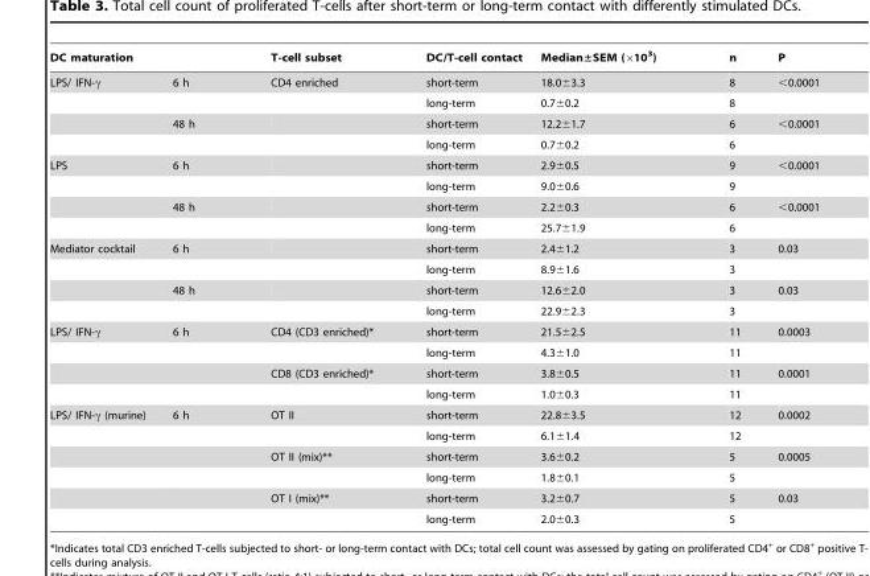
<table><thead><tr><td colspan="2">DC maturation</td><td rowspan="2">T-cell subset CD4 enriched</td><td rowspan="2">DC/T-cell contact short-term</td><td rowspan="2">Median±SEM (×10<sup>3</sup>) 18.0±3.3</td><td rowspan="2">n 8</td><td rowspan="2">P &lt;0.0001</td></tr><tr><td>LPS/ IFN-γ</td><td>6 h</td></tr></thead><tbody><tr><td></td><td></td><td></td><td>long-term</td><td>0.7±0.2</td><td>8</td><td></td></tr><tr><td></td><td>48 h</td><td></td><td>short-term</td><td>12.2±1.7</td><td>6</td><td>&lt;0.0001</td></tr><tr><td></td><td></td><td></td><td>long-term</td><td>0.7±0.2</td><td>6</td><td></td></tr><tr><td rowspan="4">LPS</td><td>6 h</td><td></td><td>short-term</td><td>2.9±0.5</td><td>9</td><td>&lt;0.0001</td></tr><tr><td></td><td></td><td>long-term</td><td>9.0±0.6</td><td>9</td><td></td></tr><tr><td>48 h</td><td></td><td>short-term</td><td>2.2±0.3</td><td>6</td><td>&lt;0.0001</td></tr><tr><td></td><td></td><td>long-term</td><td>25.7±1.9</td><td>6</td><td></td></tr><tr><td rowspan="4">Mediator cocktail</td><td>6 h</td><td></td><td>short-term</td><td>2.4±1.2</td><td>3</td><td>0.03</td></tr><tr><td></td><td></td><td>long-term</td><td>8.9±1.6</td><td>3</td><td></td></tr><tr><td>48 h</td><td></td><td>short-term</td><td>12.6±2.0</td><td>3</td><td>0.03</td></tr><tr><td></td><td></td><td>long-term</td><td>22.9±2.3</td><td>3</td><td></td></tr><tr><td rowspan="4">LPS/ IFN-γ</td><td>6 h</td><td>CD4 (CD3 enriched)*</td><td>short-term</td><td>21.5±2.5</td><td>11</td><td>0.0003</td></tr><tr><td></td><td></td><td>long-term</td><td>4.3±1.0</td><td>11</td><td></td></tr><tr><td></td><td>CD8 (CD3 enriched)*</td><td>short-term</td><td>3.8±0.5</td><td>11</td><td>0.0001</td></tr><tr><td></td><td></td><td>long-term</td><td>1.0±0.3</td><td>11</td><td></td></tr><tr><td rowspan="6">LPS/ IFN-γ (murine)</td><td>6 h</td><td>OT II</td><td>short-term</td><td>22.8±3.5</td><td>12</td><td>0.0002</td></tr><tr><td></td><td></td><td>long-term</td><td>6.1±1.4</td><td>12</td><td></td></tr><tr><td></td><td>OT II (mix)**</td><td>short-term</td><td>3.6±0.2</td><td>5</td><td>0.0005</td></tr><tr><td></td><td></td><td>long-term</td><td>1.8±0.1</td><td>5</td><td></td></tr><tr><td></td><td>OT I (mix)**</td><td>short-term</td><td>3.2±0.7</td><td>5</td><td>0.03</td></tr><tr><td></td><td></td><td>long-term</td><td>2.0±0.3</td><td>5</td><td></td></tr></tbody></table>